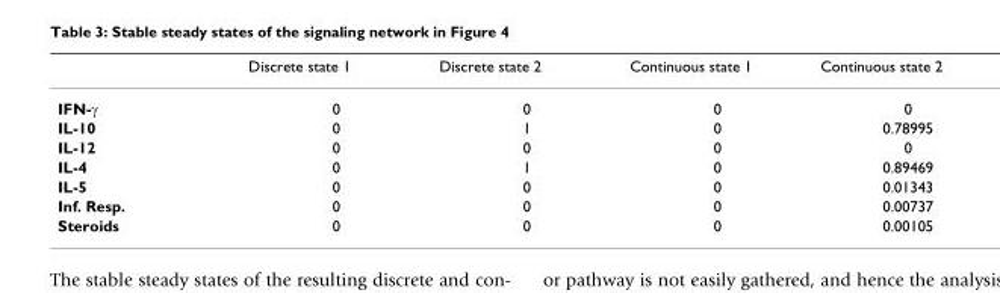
<table><thead><tr><td></td><td>Discrete state 1</td><td>Discrete state 2</td><td>Continuous state 1</td><td>Continuous state 2</td></tr></thead><tbody><tr><td>IFN-γ</td><td>0</td><td>0</td><td>0</td><td>0</td></tr><tr><td>IL-10</td><td>0</td><td>1</td><td>0</td><td>0.78995</td></tr><tr><td>IL-12</td><td>0</td><td>0</td><td>0</td><td>0</td></tr><tr><td>IL-4</td><td>0</td><td>1</td><td>0</td><td>0.89469</td></tr><tr><td>IL-5</td><td>0</td><td>0</td><td>0</td><td>0.01343</td></tr><tr><td>Inf. Resp.</td><td>0</td><td>0</td><td>0</td><td>0.00737</td></tr><tr><td>Steroids</td><td>0</td><td>0</td><td>0</td><td>0.00105</td></tr></tbody></table>